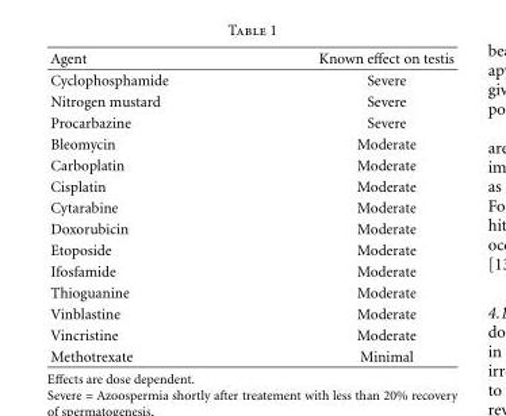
<table><thead><tr><td>Agent</td><td>Known effect on testis</td></tr></thead><tbody><tr><td>Cyclophosphamide</td><td>Severe</td></tr><tr><td>Nitrogen mustard</td><td>Severe</td></tr><tr><td>Procarbazine</td><td>Severe</td></tr><tr><td>Bleomycin</td><td>Moderate</td></tr><tr><td>Carboplatin</td><td>Moderate</td></tr><tr><td>Cisplatin</td><td>Moderate</td></tr><tr><td>Cytarabine</td><td>Moderate</td></tr><tr><td>Doxorubicin</td><td>Moderate</td></tr><tr><td>Etoposide</td><td>Moderate</td></tr><tr><td>Ifosfamide</td><td>Moderate</td></tr><tr><td>Thioguanine</td><td>Moderate</td></tr><tr><td>Vinblastine</td><td>Moderate</td></tr><tr><td>Vincristine</td><td>Moderate</td></tr><tr><td>Methotrexate</td><td>Minimal</td></tr></tbody></table>